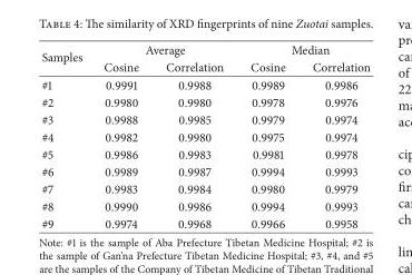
<table><thead><tr><td rowspan="2">Samples</td><td colspan="2">Average</td><td colspan="2">Median</td></tr><tr><td>Cosine</td><td>Correlation</td><td>Cosine</td><td>Correlation</td></tr></thead><tbody><tr><td>#1</td><td>0.9991</td><td>0.9988</td><td>0.9989</td><td>0.9986</td></tr><tr><td>#2</td><td>0.9980</td><td>0.9980</td><td>0.9978</td><td>0.9976</td></tr><tr><td>#3</td><td>0.9988</td><td>0.9985</td><td>0.9979</td><td>0.9974</td></tr><tr><td>#4</td><td>0.9982</td><td>0.9980</td><td>0.9975</td><td>0.9974</td></tr><tr><td>#5</td><td>0.9986</td><td>0.9983</td><td>0.9981</td><td>0.9978</td></tr><tr><td>#6</td><td>0.9989</td><td>0.9987</td><td>0.9994</td><td>0.9993</td></tr><tr><td>#7</td><td>0.9983</td><td>0.9984</td><td>0.9980</td><td>0.9979</td></tr><tr><td>#8</td><td>0.9990</td><td>0.9986</td><td>0.9994</td><td>0.9993</td></tr><tr><td>#9</td><td>0.9974</td><td>0.9968</td><td>0.9966</td><td>0.9958</td></tr></tbody></table>